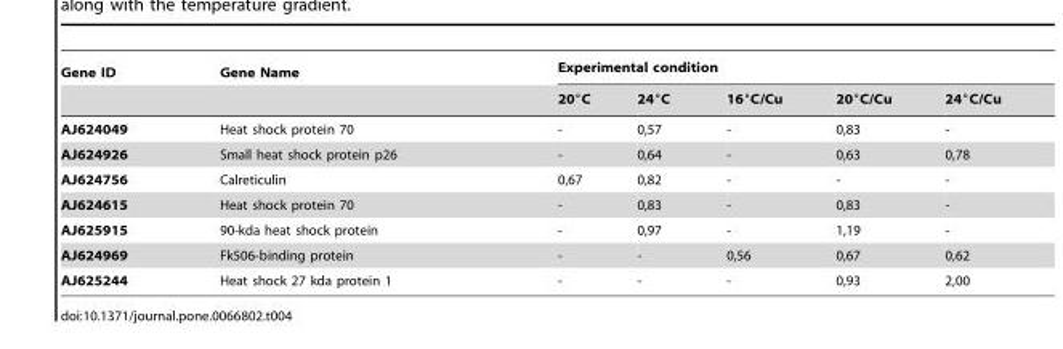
<table><thead><tr><td rowspan="2">Gene ID</td><td rowspan="2">Gene Name</td><td colspan="5">Experimental condition</td></tr><tr><td>20°C</td><td>24°C</td><td>16°C/Cu</td><td>20°C/Cu</td><td>24°C/Cu</td></tr></thead><tbody><tr><td>AJ624049</td><td>Heat shock protein 70</td><td>-</td><td>0,57</td><td>-</td><td>0,83</td><td>-</td></tr><tr><td>AJ624926</td><td>Small heat shock protein p26</td><td>-</td><td>0,64</td><td>-</td><td>0,63</td><td>0,78</td></tr><tr><td>AJ624756</td><td>Calreticulin</td><td>0,67</td><td>0,82</td><td>-</td><td>-</td><td>-</td></tr><tr><td>AJ624615</td><td>Heat shock protein 70</td><td>-</td><td>0,83</td><td>-</td><td>0,83</td><td>-</td></tr><tr><td>AJ625915</td><td>90-kda heat shock protein</td><td>-</td><td>0,97</td><td>-</td><td>1,19</td><td>-</td></tr><tr><td>AJ624969</td><td>Fk506-binding protein</td><td>-</td><td>-</td><td>0,56</td><td>0,67</td><td>0,62</td></tr><tr><td>AJ625244</td><td>Heat shock 27 kda protein 1</td><td>-</td><td>-</td><td>-</td><td>0,93</td><td>2,00</td></tr></tbody></table>